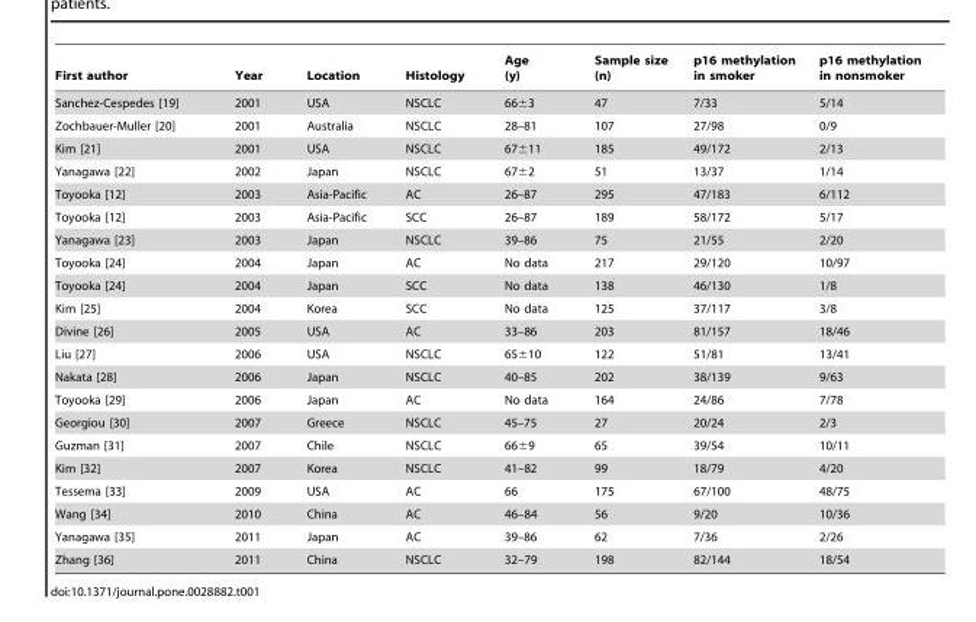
<table><thead><tr><td>First author</td><td>Year</td><td>Location</td><td>Histology</td><td>Age (y)</td><td>Sample size (n)</td><td>p16 methylation in smoker</td><td>p16 methylation in nonsmoker</td></tr></thead><tbody><tr><td>Sanchez-Cespedes [19]</td><td>2001</td><td>USA</td><td>NSCLC</td><td>66±3</td><td>47</td><td>7/33</td><td>5/14</td></tr><tr><td>Zochbauer-Muller [20]</td><td>2001</td><td>Australia</td><td>NSCLC</td><td>28–81</td><td>107</td><td>27/98</td><td>0/9</td></tr><tr><td>Kim [21]</td><td>2001</td><td>USA</td><td>NSCLC</td><td>67±11</td><td>185</td><td>49/172</td><td>2/13</td></tr><tr><td>Yanagawa [22]</td><td>2002</td><td>Japan</td><td>NSCLC</td><td>67±2</td><td>51</td><td>13/37</td><td>1/14</td></tr><tr><td>Toyooka [12]</td><td>2003</td><td>Asia-Pacific</td><td>AC</td><td>26–87</td><td>295</td><td>47/183</td><td>6/112</td></tr><tr><td>Toyooka [12]</td><td>2003</td><td>Asia-Pacific</td><td>SCC</td><td>26–87</td><td>189</td><td>58/172</td><td>5/17</td></tr><tr><td>Yanagawa [23]</td><td>2003</td><td>Japan</td><td>NSCLC</td><td>39–86</td><td>75</td><td>21/55</td><td>2/20</td></tr><tr><td>Toyooka [24]</td><td>2004</td><td>Japan</td><td>AC</td><td>No data</td><td>217</td><td>29/120</td><td>10/97</td></tr><tr><td>Toyooka [24]</td><td>2004</td><td>Japan</td><td>SCC</td><td>No data</td><td>138</td><td>46/130</td><td>1/8</td></tr><tr><td>Kim [25]</td><td>2004</td><td>Korea</td><td>SCC</td><td>No data</td><td>125</td><td>37/117</td><td>3/8</td></tr><tr><td>Divine [26]</td><td>2005</td><td>USA</td><td>AC</td><td>33–86</td><td>203</td><td>81/157</td><td>18/46</td></tr><tr><td>Liu [27]</td><td>2006</td><td>USA</td><td>NSCLC</td><td>65±10</td><td>122</td><td>51/81</td><td>13/41</td></tr><tr><td>Nakata [28]</td><td>2006</td><td>Japan</td><td>NSCLC</td><td>40–85</td><td>202</td><td>38/139</td><td>9/63</td></tr><tr><td>Toyooka [29]</td><td>2006</td><td>Japan</td><td>AC</td><td>No data</td><td>164</td><td>24/86</td><td>7/78</td></tr><tr><td>Georgiou [30]</td><td>2007</td><td>Greece</td><td>NSCLC</td><td>45–75</td><td>27</td><td>20/24</td><td>2/3</td></tr><tr><td>Guzman [31]</td><td>2007</td><td>Chile</td><td>NSCLC</td><td>66±9</td><td>65</td><td>39/54</td><td>10/11</td></tr><tr><td>Kim [32]</td><td>2007</td><td>Korea</td><td>NSCLC</td><td>41–82</td><td>99</td><td>18/79</td><td>4/20</td></tr><tr><td>Tessema [33]</td><td>2009</td><td>USA</td><td>AC</td><td>66</td><td>175</td><td>67/100</td><td>48/75</td></tr><tr><td>Wang [34]</td><td>2010</td><td>China</td><td>AC</td><td>46–84</td><td>56</td><td>9/20</td><td>10/36</td></tr><tr><td>Yanagawa [35]</td><td>2011</td><td>Japan</td><td>AC</td><td>39–86</td><td>62</td><td>7/36</td><td>2/26</td></tr><tr><td>Zhang [36]</td><td>2011</td><td>China</td><td>NSCLC</td><td>32–79</td><td>198</td><td>82/144</td><td>18/54</td></tr></tbody></table>